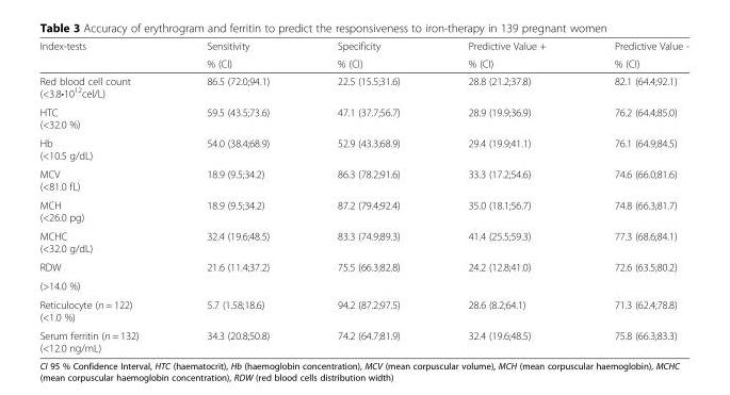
<table><thead><tr><td rowspan="2">Index-tests</td><td rowspan="2">Sensitivity % (CI)</td><td rowspan="2">Specificity % (CI)</td><td rowspan="2">Predictive Value + % (CI)</td><td rowspan="2">Predictive Value - % (CI)</td></tr><tr></tr></thead><tbody><tr><td>Red blood cell count (&lt;3.8•10<sup>12</sup>cel/L)</td><td>86.5 (72.0;94.1)</td><td>22.5 (15.5;31.6)</td><td>28.8 (21.2;37.8)</td><td>82.1 (64.4;92.1)</td></tr><tr><td>HTC (&lt;32.0 %)</td><td>59.5 (43.5;73.6)</td><td>47.1 (37.7;56.7)</td><td>28.9 (19.9;36.9)</td><td>76.2 (64.4;85.0)</td></tr><tr><td>Hb (&lt;10.5 g/dL)</td><td>54.0 (38.4;68.9)</td><td>52.9 (43.3;68.9)</td><td>29.4 (19.9;41.1)</td><td>76.1 (64.9;84.5)</td></tr><tr><td>MCV (&lt;81.0 fL)</td><td>18.9 (9.5;34.2)</td><td>86.3 (78.2;91.6)</td><td>33.3 (17.2;54.6)</td><td>74.6 (66.0;81.6)</td></tr><tr><td>MCH (&lt;26.0 pg)</td><td>18.9 (9.5;34.2)</td><td>87.2 (79.4;92.4)</td><td>35.0 (18.1;56.7)</td><td>74.8 (66.3;81.7)</td></tr><tr><td>MCHC (&lt;32.0 g/dL)</td><td>32.4 (19.6;48.5)</td><td>83.3 (74.9;89.3)</td><td>41.4 (25.5;59.3)</td><td>77.3 (68.6;84.1)</td></tr><tr><td>RDW</td><td>21.6 (11.4;37.2)</td><td>75.5 (66.3;82.8)</td><td>24.2 (12.8;41.0)</td><td>72.6 (63.5;80.2)</td></tr><tr><td colspan="5">(&gt;14.0 %)</td></tr><tr><td>Reticulocyte (n = 122) (&lt;1.0 %)</td><td>5.7 (1.58;18.6)</td><td>94.2 (87.2;97.5)</td><td>28.6 (8.2;64.1)</td><td>71.3 (62.4;78.8)</td></tr><tr><td>Serum ferritin (n = 132) (&lt;12.0 ng/mL)</td><td>34.3 (20.8;50.8)</td><td>74.2 (64.7;81.9)</td><td>32.4 (19.6;48.5)</td><td>75.8 (66.3;83.3)</td></tr></tbody></table>